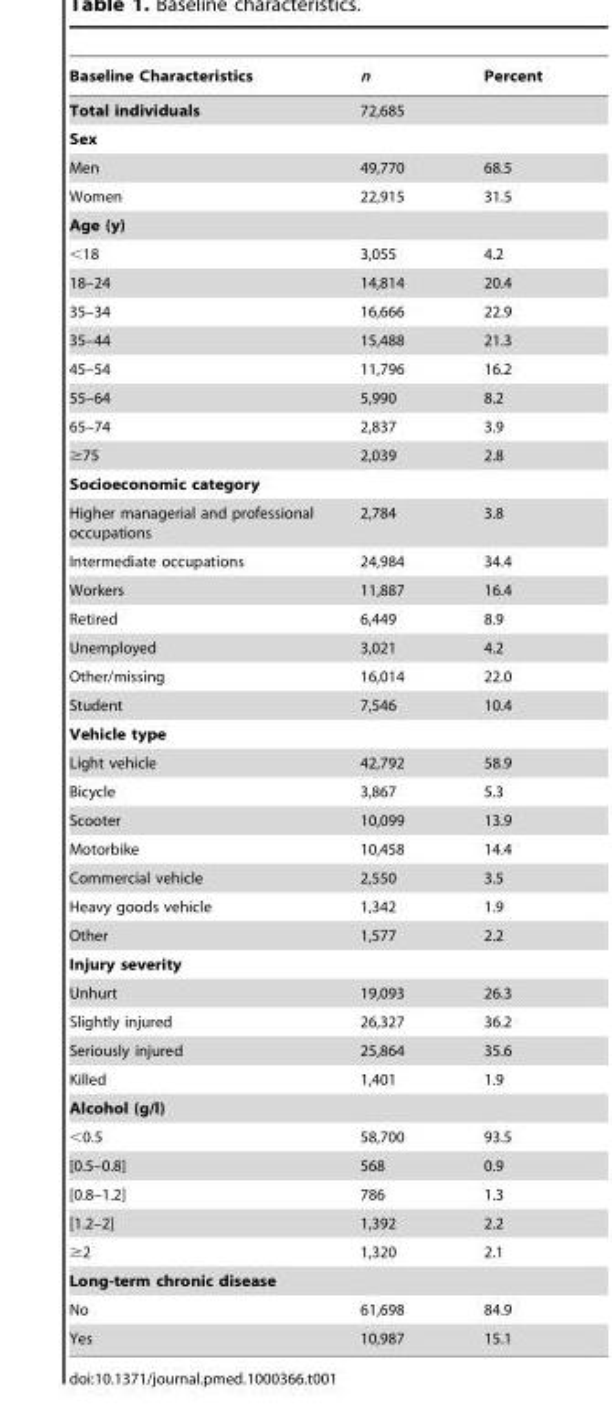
<table><thead><tr><td>Baseline Characteristics</td><td>n</td><td>Percent</td></tr></thead><tbody><tr><td>Total individuals</td><td>72,685</td><td></td></tr><tr><td colspan="3">Sex</td></tr><tr><td>Men</td><td>49,770</td><td>68.5</td></tr><tr><td>Women</td><td>22,915</td><td>31.5</td></tr><tr><td colspan="3">Age (y)</td></tr><tr><td>&lt;18</td><td>3,055</td><td>4.2</td></tr><tr><td>18–24</td><td>14,814</td><td>20.4</td></tr><tr><td>35–34</td><td>16,666</td><td>22.9</td></tr><tr><td>35–44</td><td>15,488</td><td>21.3</td></tr><tr><td>45–54</td><td>11,796</td><td>16.2</td></tr><tr><td>55–64</td><td>5,990</td><td>8.2</td></tr><tr><td>65–74</td><td>2,837</td><td>3.9</td></tr><tr><td>≥75</td><td>2,039</td><td>2.8</td></tr><tr><td colspan="3">Socioeconomic category</td></tr><tr><td>Higher managerial and professional occupations</td><td>2,784</td><td>3.8</td></tr><tr><td>Intermediate occupations</td><td>24,984</td><td>34.4</td></tr><tr><td>Workers</td><td>11,887</td><td>16.4</td></tr><tr><td>Retired</td><td>6,449</td><td>8.9</td></tr><tr><td>Unemployed</td><td>3,021</td><td>4.2</td></tr><tr><td>Other/missing</td><td>16,014</td><td>22.0</td></tr><tr><td>Student</td><td>7,546</td><td>10.4</td></tr><tr><td colspan="3">Vehicle type</td></tr><tr><td>Light vehicle</td><td>42,792</td><td>58.9</td></tr><tr><td>Bicycle</td><td>3,867</td><td>5.3</td></tr><tr><td>Scooter</td><td>10,099</td><td>13.9</td></tr><tr><td>Motorbike</td><td>10,458</td><td>14.4</td></tr><tr><td>Commercial vehicle</td><td>2,550</td><td>3.5</td></tr><tr><td>Heavy goods vehicle</td><td>1,342</td><td>1.9</td></tr><tr><td>Other</td><td>1,577</td><td>2.2</td></tr><tr><td colspan="3">Injury severity</td></tr><tr><td>Unhurt</td><td>19,093</td><td>26.3</td></tr><tr><td>Slightly injured</td><td>26,327</td><td>36.2</td></tr><tr><td>Seriously injured</td><td>25,864</td><td>35.6</td></tr><tr><td>Killed</td><td>1,401</td><td>1.9</td></tr><tr><td colspan="3">Alcohol (g/l)</td></tr><tr><td>&lt;0.5</td><td>58,700</td><td>93.5</td></tr><tr><td>[0.5–0.8]</td><td>568</td><td>0.9</td></tr><tr><td>[0.8–1.2]</td><td>786</td><td>1.3</td></tr><tr><td>[1.2–2]</td><td>1,392</td><td>2.2</td></tr><tr><td>≥2</td><td>1,320</td><td>2.1</td></tr><tr><td colspan="3">Long-term chronic disease</td></tr><tr><td>No</td><td>61,698</td><td>84.9</td></tr><tr><td>Yes</td><td>10,987</td><td>15.1</td></tr></tbody></table>